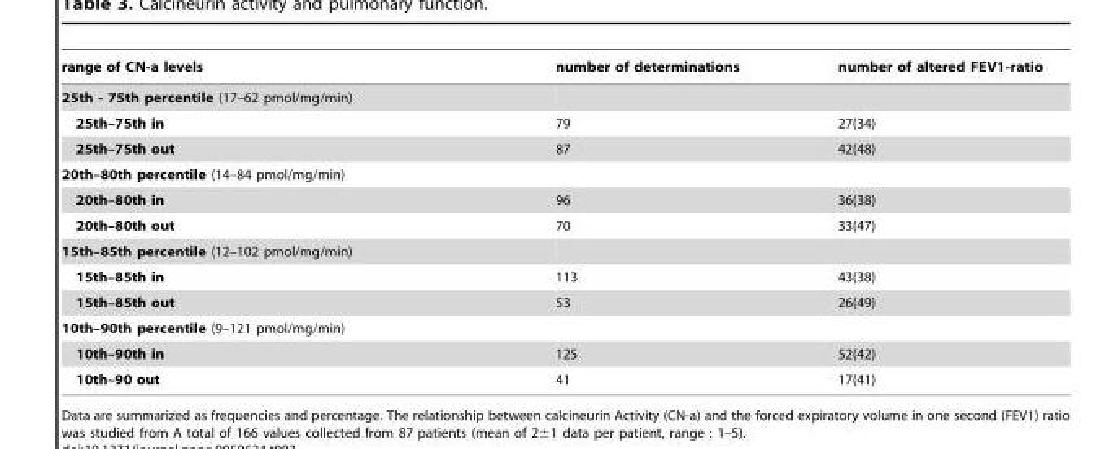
<table><thead><tr><td>range of CN-a levels</td><td>number of determinations</td><td>number of altered FEV1-ratio</td></tr></thead><tbody><tr><td colspan="3">25th - 75th percentile (17–62 pmol/mg/min)</td></tr><tr><td>25th–75th in</td><td>79</td><td>27(34)</td></tr><tr><td>25th–75th out</td><td>87</td><td>42(48)</td></tr><tr><td colspan="3">20th–80th percentile (14–84 pmol/mg/min)</td></tr><tr><td>20th–80th in</td><td>96</td><td>36(38)</td></tr><tr><td>20th–80th out</td><td>70</td><td>33(47)</td></tr><tr><td colspan="3">15th–85th percentile (12–102 pmol/mg/min)</td></tr><tr><td>15th–85th in</td><td>113</td><td>43(38)</td></tr><tr><td>15th–85th out</td><td>53</td><td>26(49)</td></tr><tr><td colspan="3">10th–90th percentile (9–121 pmol/mg/min)</td></tr><tr><td>10th–90th in</td><td>125</td><td>52(42)</td></tr><tr><td>10th–90 out</td><td>41</td><td>17(41)</td></tr></tbody></table>